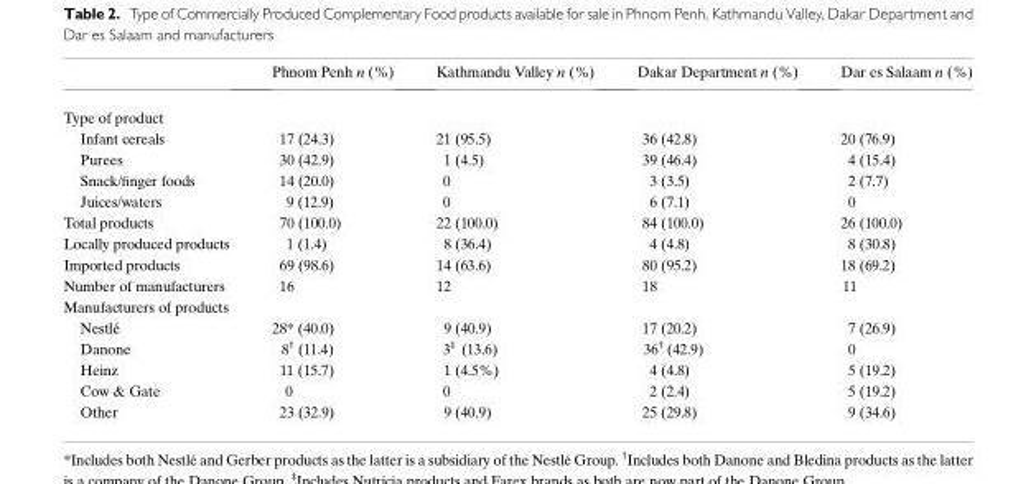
<table><thead><tr><td></td><td>Phnom Penh n (%)</td><td>Kathmandu Valley n (%)</td><td>Dakar Department n (%)</td><td>Dar es Salaam n (%)</td></tr></thead><tbody><tr><td colspan="5">Type of product</td></tr><tr><td>Infant cereals</td><td>17 (24.3)</td><td>21 (95.5)</td><td>36 (42.8)</td><td>20 (76.9)</td></tr><tr><td>Purees</td><td>30 (42.9)</td><td>1 (4.5)</td><td>39 (46.4)</td><td>4 (15.4)</td></tr><tr><td>Snack/finger foods</td><td>14 (20.0)</td><td>0</td><td>3 (3.5)</td><td>2 (7.7)</td></tr><tr><td>Juices/waters</td><td>9 (12.9)</td><td>0</td><td>6 (7.1)</td><td>0</td></tr><tr><td>Total products</td><td>70 (100.0)</td><td>22 (100.0)</td><td>84 (100.0)</td><td>26 (100.0)</td></tr><tr><td>Locally produced products</td><td>1 (1.4)</td><td>8 (36.4)</td><td>4 (4.8)</td><td>8 (30.8)</td></tr><tr><td>Imported products</td><td>69 (98.6)</td><td>14 (63.6)</td><td>80 (95.2)</td><td>18 (69.2)</td></tr><tr><td>Number of manufacturers</td><td>16</td><td>12</td><td>18</td><td>11</td></tr><tr><td colspan="5">Manufacturers of products</td></tr><tr><td>Nestlé</td><td>28* (40.0)</td><td>9 (40.9)</td><td>17 (20.2)</td><td>7 (26.9)</td></tr><tr><td>Danone</td><td>8† (11.4)</td><td>3‡ (13.6)</td><td>36† (42.9)</td><td>0</td></tr><tr><td>Heinz</td><td>11 (15.7)</td><td>1 (4.5%)</td><td>4 (4.8)</td><td>5 (19.2)</td></tr><tr><td>Cow &amp; Gate</td><td>0</td><td>0</td><td>2 (2.4)</td><td>5 (19.2)</td></tr><tr><td>Other</td><td>23 (32.9)</td><td>9 (40.9)</td><td>25 (29.8)</td><td>9 (34.6)</td></tr></tbody></table>